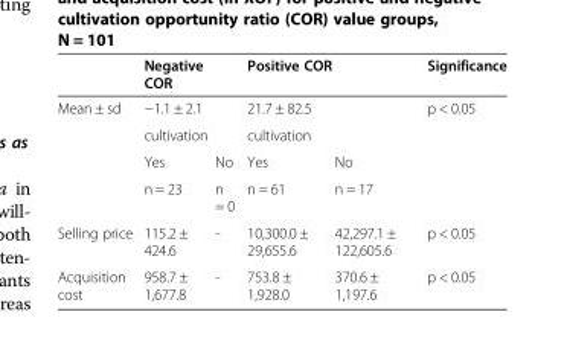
<table><thead><tr><td rowspan="4">Mean ± sd</td><td rowspan="3" colspan="2">Negative COR −1.1 ± 2.1 cultivation</td><td rowspan="3" colspan="2">Positive COR 21.7 ± 82.5 cultivation</td><td rowspan="4">Significance p &lt; 0.05</td></tr><tr></tr><tr></tr><tr><td>Yes</td><td>No</td><td>Yes</td><td>No</td></tr></thead><tbody><tr><td></td><td>n = 23</td><td>n = 0</td><td>n = 61</td><td>n = 17</td><td></td></tr><tr><td>Selling price</td><td>115.2 ± 424.6</td><td>-</td><td>10,300.0 ± 29,655.6</td><td>42,297.1 ± 122,605.6</td><td>p &lt; 0.05</td></tr><tr><td>Acquisition cost</td><td>958.7 ± 1,677.8</td><td>-</td><td>753.8 ± 1,928.0</td><td>370.6 ± 1,197.6</td><td>p &lt; 0.05</td></tr></tbody></table>